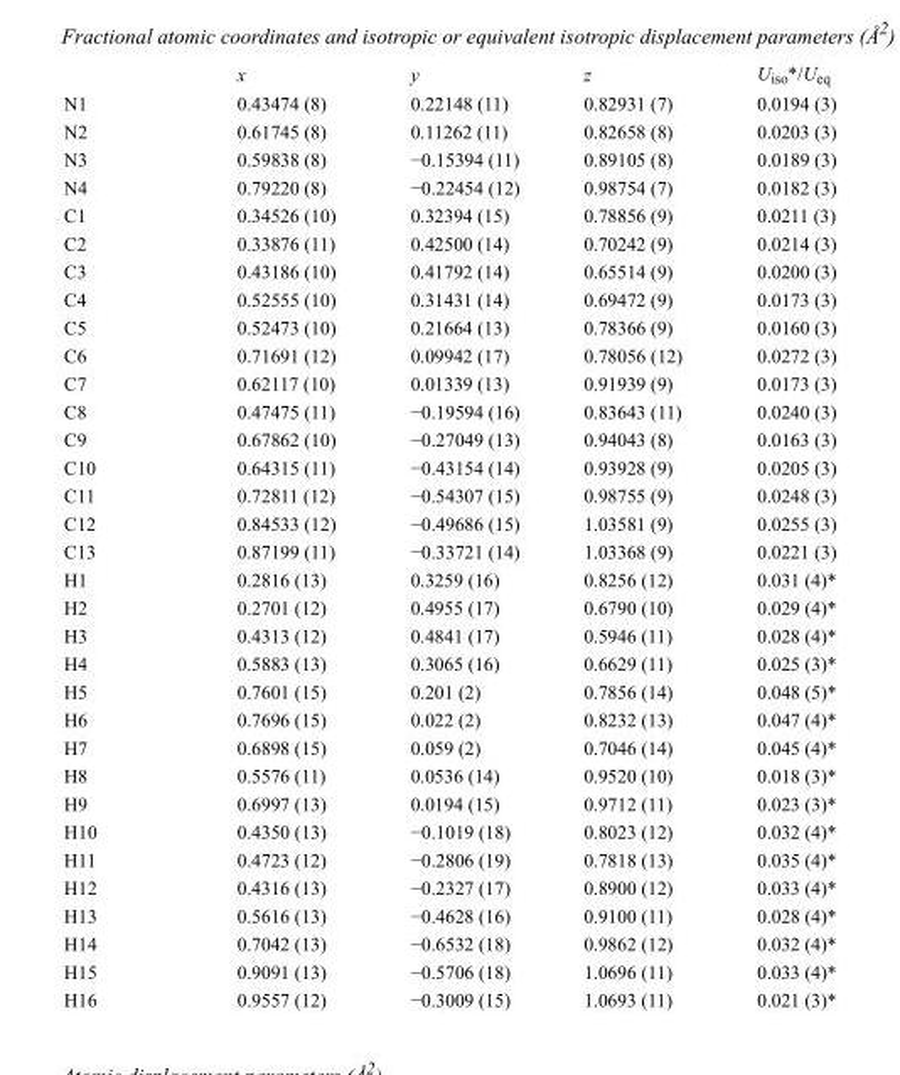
<table><thead><tr><td></td><td>x</td><td>y</td><td>z</td><td>U<sub>iso</sub>*/U<sub>eq</sub></td></tr></thead><tbody><tr><td>N1</td><td>0.43474 (8)</td><td>0.22148 (11)</td><td>0.82931 (7)</td><td>0.0194 (3)</td></tr><tr><td>N2</td><td>0.61745 (8)</td><td>0.11262 (11)</td><td>0.82658 (8)</td><td>0.0203 (3)</td></tr><tr><td>N3</td><td>0.59838 (8)</td><td>−0.15394 (11)</td><td>0.89105 (8)</td><td>0.0189 (3)</td></tr><tr><td>N4</td><td>0.79220 (8)</td><td>−0.22454 (12)</td><td>0.98754 (7)</td><td>0.0182 (3)</td></tr><tr><td>C1</td><td>0.34526 (10)</td><td>0.32394 (15)</td><td>0.78856 (9)</td><td>0.0211 (3)</td></tr><tr><td>C2</td><td>0.33876 (11)</td><td>0.42500 (14)</td><td>0.70242 (9)</td><td>0.0214 (3)</td></tr><tr><td>C3</td><td>0.43186 (10)</td><td>0.41792 (14)</td><td>0.65514 (9)</td><td>0.0200 (3)</td></tr><tr><td>C4</td><td>0.52555 (10)</td><td>0.31431 (14)</td><td>0.69472 (9)</td><td>0.0173 (3)</td></tr><tr><td>C5</td><td>0.52473 (10)</td><td>0.21664 (13)</td><td>0.78366 (9)</td><td>0.0160 (3)</td></tr><tr><td>C6</td><td>0.71691 (12)</td><td>0.09942 (17)</td><td>0.78056 (12)</td><td>0.0272 (3)</td></tr><tr><td>C7</td><td>0.62117 (10)</td><td>0.01339 (13)</td><td>0.91939 (9)</td><td>0.0173 (3)</td></tr><tr><td>C8</td><td>0.47475 (11)</td><td>−0.19594 (16)</td><td>0.83643 (11)</td><td>0.0240 (3)</td></tr><tr><td>C9</td><td>0.67862 (10)</td><td>−0.27049 (13)</td><td>0.94043 (8)</td><td>0.0163 (3)</td></tr><tr><td>C10</td><td>0.64315 (11)</td><td>−0.43154 (14)</td><td>0.93928 (9)</td><td>0.0205 (3)</td></tr><tr><td>C11</td><td>0.72811 (12)</td><td>−0.54307 (15)</td><td>0.98755 (9)</td><td>0.0248 (3)</td></tr><tr><td>C12</td><td>0.84533 (12)</td><td>−0.49686 (15)</td><td>1.03581 (9)</td><td>0.0255 (3)</td></tr><tr><td>C13</td><td>0.87199 (11)</td><td>−0.33721 (14)</td><td>1.03368 (9)</td><td>0.0221 (3)</td></tr><tr><td>H1</td><td>0.2816 (13)</td><td>0.3259 (16)</td><td>0.8256 (12)</td><td>0.031 (4)*</td></tr><tr><td>H2</td><td>0.2701 (12)</td><td>0.4955 (17)</td><td>0.6790 (10)</td><td>0.029 (4)*</td></tr><tr><td>H3</td><td>0.4313 (12)</td><td>0.4841 (17)</td><td>0.5946 (11)</td><td>0.028 (4)*</td></tr><tr><td>H4</td><td>0.5883 (13)</td><td>0.3065 (16)</td><td>0.6629 (11)</td><td>0.025 (3)*</td></tr><tr><td>H5</td><td>0.7601 (15)</td><td>0.201 (2)</td><td>0.7856 (14)</td><td>0.048 (5)*</td></tr><tr><td>H6</td><td>0.7696 (15)</td><td>0.022 (2)</td><td>0.8232 (13)</td><td>0.047 (4)*</td></tr><tr><td>H7</td><td>0.6898 (15)</td><td>0.059 (2)</td><td>0.7046 (14)</td><td>0.045 (4)*</td></tr><tr><td>H8</td><td>0.5576 (11)</td><td>0.0536 (14)</td><td>0.9520 (10)</td><td>0.018 (3)*</td></tr><tr><td>H9</td><td>0.6997 (13)</td><td>0.0194 (15)</td><td>0.9712 (11)</td><td>0.023 (3)*</td></tr><tr><td>H10</td><td>0.4350 (13)</td><td>−0.1019 (18)</td><td>0.8023 (12)</td><td>0.032 (4)*</td></tr><tr><td>H11</td><td>0.4723 (12)</td><td>−0.2806 (19)</td><td>0.7818 (13)</td><td>0.035 (4)*</td></tr><tr><td>H12</td><td>0.4316 (13)</td><td>−0.2327 (17)</td><td>0.8900 (12)</td><td>0.033 (4)*</td></tr><tr><td>H13</td><td>0.5616 (13)</td><td>−0.4628 (16)</td><td>0.9100 (11)</td><td>0.028 (4)*</td></tr><tr><td>H14</td><td>0.7042 (13)</td><td>−0.6532 (18)</td><td>0.9862 (12)</td><td>0.032 (4)*</td></tr><tr><td>H15</td><td>0.9091 (13)</td><td>−0.5706 (18)</td><td>1.0696 (11)</td><td>0.033 (4)*</td></tr><tr><td>H16</td><td>0.9557 (12)</td><td>−0.3009 (15)</td><td>1.0693 (11)</td><td>0.021 (3)*</td></tr></tbody></table>